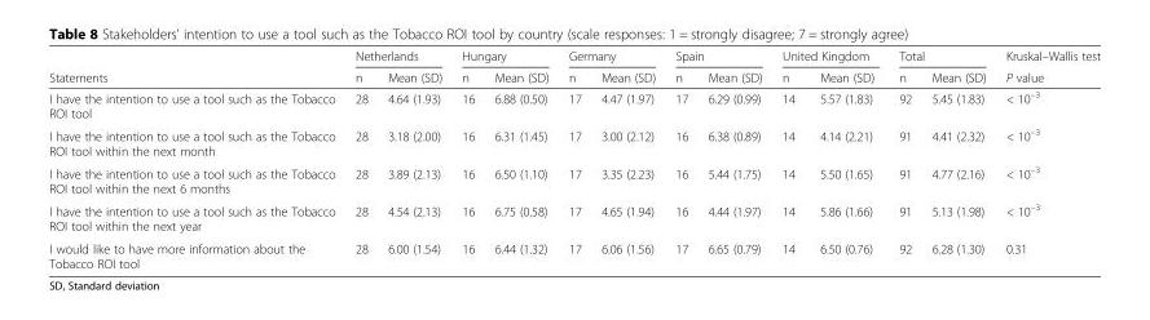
<table><thead><tr><td rowspan="2">Statements</td><td colspan="2">Netherlands</td><td colspan="2">Hungary</td><td colspan="2">Germany</td><td colspan="2">Spain</td><td colspan="2">United Kingdom</td><td colspan="2">Total</td><td rowspan="2">Kruskal–Wallis test P value</td></tr><tr><td>n</td><td>Mean (SD)</td><td>n</td><td>Mean (SD)</td><td>n</td><td>Mean (SD)</td><td>n</td><td>Mean (SD)</td><td>n</td><td>Mean (SD)</td><td>n</td><td>Mean (SD)</td></tr></thead><tbody><tr><td>I have the intention to use a tool such as the Tobacco ROI tool</td><td>28</td><td>4.64 (1.93)</td><td>16</td><td>6.88 (0.50)</td><td>17</td><td>4.47 (1.97)</td><td>17</td><td>6.29 (0.99)</td><td>14</td><td>5.57 (1.83)</td><td>92</td><td>5.45 (1.83)</td><td>&lt; 10<sup>–3</sup></td></tr><tr><td>I have the intention to use a tool such as the Tobacco ROI tool within the next month</td><td>28</td><td>3.18 (2.00)</td><td>16</td><td>6.31 (1.45)</td><td>17</td><td>3.00 (2.12)</td><td>16</td><td>6.38 (0.89)</td><td>14</td><td>4.14 (2.21)</td><td>91</td><td>4.41 (2.32)</td><td>&lt; 10<sup>–3</sup></td></tr><tr><td>I have the intention to use a tool such as the Tobacco ROI tool within the next 6 months</td><td>28</td><td>3.89 (2.13)</td><td>16</td><td>6.50 (1.10)</td><td>17</td><td>3.35 (2.23)</td><td>16</td><td>5.44 (1.75)</td><td>14</td><td>5.50 (1.65)</td><td>91</td><td>4.77 (2.16)</td><td>&lt; 10<sup>–3</sup></td></tr><tr><td>I have the intention to use a tool such as the Tobacco ROI tool within the next year</td><td>28</td><td>4.54 (2.13)</td><td>16</td><td>6.75 (0.58)</td><td>17</td><td>4.65 (1.94)</td><td>16</td><td>4.44 (1.97)</td><td>14</td><td>5.86 (1.66)</td><td>91</td><td>5.13 (1.98)</td><td>&lt; 10<sup>–3</sup></td></tr><tr><td>I would like to have more information about the Tobacco ROI tool</td><td>28</td><td>6.00 (1.54)</td><td>16</td><td>6.44 (1.32)</td><td>17</td><td>6.06 (1.56)</td><td>17</td><td>6.65 (0.79)</td><td>14</td><td>6.50 (0.76)</td><td>92</td><td>6.28 (1.30)</td><td>0.31</td></tr></tbody></table>